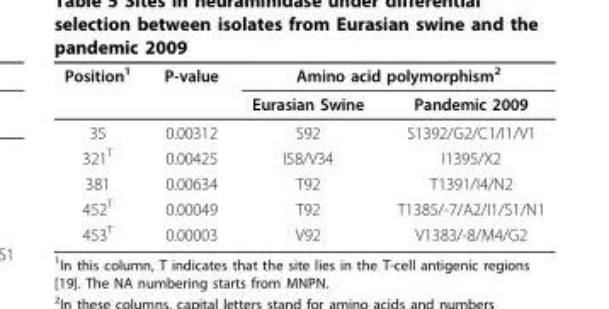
<table><thead><tr><td rowspan="2">Position<sup>1</sup></td><td rowspan="2">P-value</td><td colspan="2">Amino acid polymorphism<sup>2</sup></td></tr><tr><td>Eurasian Swine</td><td>Pandemic 2009</td></tr></thead><tbody><tr><td>35</td><td>0.00312</td><td>S92</td><td>S1392/G2/C1/I1/V1</td></tr><tr><td>321<sup>T</sup></td><td>0.00425</td><td>I58/V34</td><td>I1395/X2</td></tr><tr><td>381</td><td>0.00634</td><td>T92</td><td>T1391/I4/N2</td></tr><tr><td>452<sup>T</sup></td><td>0.00049</td><td>T92</td><td>T1385/-7/A2/I1/S1/N1</td></tr><tr><td>453<sup>T</sup></td><td>0.00003</td><td>V92</td><td>V1383/-8/M4/G2</td></tr></tbody></table>